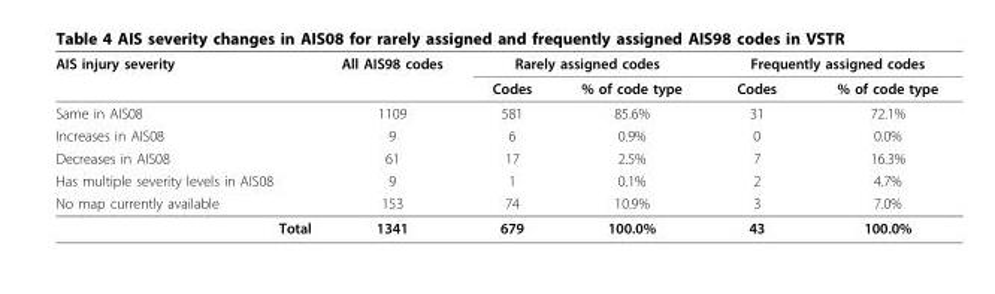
<table><thead><tr><td rowspan="2">AIS injury severity</td><td rowspan="2">All AIS98 codes</td><td colspan="2">Rarely assigned codes</td><td colspan="2">Frequently assigned codes</td></tr><tr><td>Codes</td><td>% of code type</td><td>Codes</td><td>% of code type</td></tr></thead><tbody><tr><td>Same in AIS08</td><td>1109</td><td>581</td><td>85.6%</td><td>31</td><td>72.1%</td></tr><tr><td>Increases in AIS08</td><td>9</td><td>6</td><td>0.9%</td><td>0</td><td>0.0%</td></tr><tr><td>Decreases in AIS08</td><td>61</td><td>17</td><td>2.5%</td><td>7</td><td>16.3%</td></tr><tr><td>Has multiple severity levels in AIS08</td><td>9</td><td>1</td><td>0.1%</td><td>2</td><td>4.7%</td></tr><tr><td>No map currently available</td><td>153</td><td>74</td><td>10.9%</td><td>3</td><td>7.0%</td></tr><tr><td>Total</td><td>1341</td><td>679</td><td>100.0%</td><td>43</td><td>100.0%</td></tr></tbody></table>